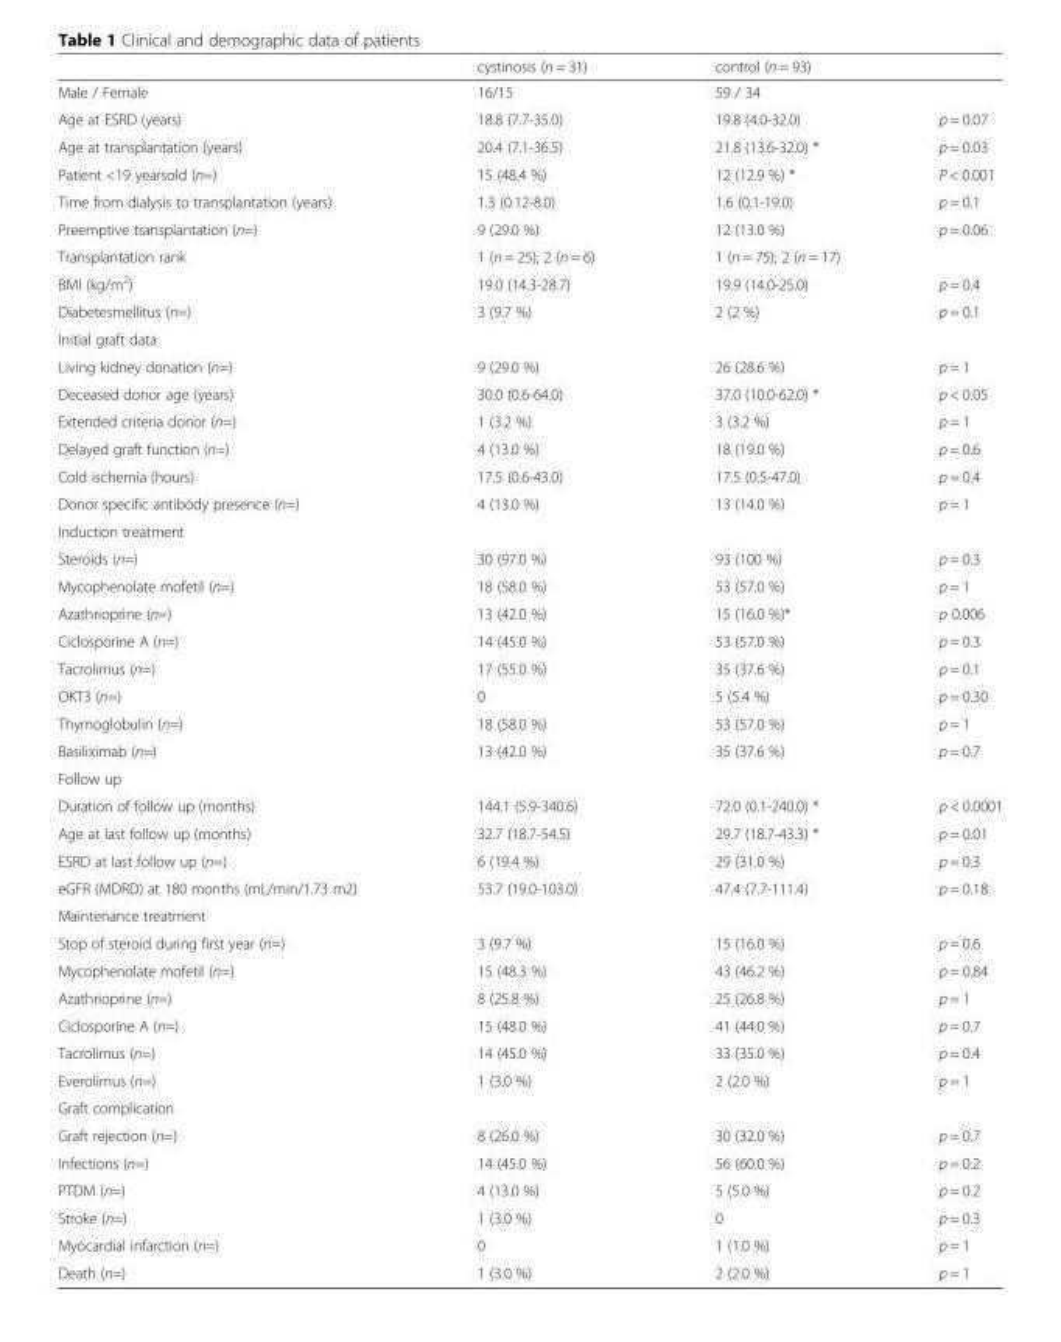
<table><thead><tr><td></td><td>cystinosis (n = 31)</td><td>control (n = 93)</td><td></td></tr></thead><tbody><tr><td>Male / Female</td><td>16/15</td><td>59 / 34</td><td></td></tr><tr><td>Age at ESRD (years)</td><td>18.8 (7.7-35.0)</td><td>19.8 (4.0-32.0)</td><td>p = 0.07</td></tr><tr><td>Age at transplantation (years)</td><td>20.4 (7.1-36.5)</td><td>21.8 (13.6-32.0) *</td><td>p = 0.03</td></tr><tr><td>Patient &lt;19 yearsold (n=)</td><td>15 (48.4 %)</td><td>12 (12.9 %) *</td><td>P &lt; 0.001</td></tr><tr><td>Time from dialysis to transplantation (years)</td><td>1.3 (0.12-8.0)</td><td>1.6 (0.1-19.0)</td><td>p = 0.1</td></tr><tr><td>Preemptive transplantation (n=)</td><td>9 (29.0 %)</td><td>12 (13.0 %)</td><td>p = 0.06</td></tr><tr><td>Transplantation rank</td><td>1 (n = 25); 2 (n = 6)</td><td colspan="2">1 (n = 75); 2 (n = 17)</td></tr><tr><td>BMI (kg/m<sup>2</sup>)</td><td>19.0 (14.3-28.7)</td><td>19.9 (14.0-25.0)</td><td>p = 0.4</td></tr><tr><td>Diabetesmellitus (n=)</td><td>3 (9.7 %)</td><td>2 (2 %)</td><td>p = 0.1</td></tr><tr><td colspan="4">Initial graft data</td></tr><tr><td>Living kidney donation (n=)</td><td>9 (29.0 %)</td><td>26 (28.6 %)</td><td>p = 1</td></tr><tr><td>Deceased donor age (years)</td><td>30.0 (0.6-64.0)</td><td>37.0 (10.0-62.0) *</td><td>p &lt; 0.05</td></tr><tr><td>Extended criteria donor (n=)</td><td>1 (3.2 %)</td><td>3 (3.2 %)</td><td>p = 1</td></tr><tr><td>Delayed graft function (n=)</td><td>4 (13.0 %)</td><td>18 (19.0 %)</td><td>p = 0.6</td></tr><tr><td>Cold ischemia (hours)</td><td>17.5 (0.6-43.0)</td><td>17.5 (0.5-47.0)</td><td>p = 0.4</td></tr><tr><td>Donor specific antibody presence (n=)</td><td>4 (13.0 %)</td><td>13 (14.0 %)</td><td>p = 1</td></tr><tr><td colspan="4">Induction treatment</td></tr><tr><td>Steroids (n=)</td><td>30 (97.0 %)</td><td>93 (100 %)</td><td>p = 0.3</td></tr><tr><td>Mycophenolate mofetil (n=)</td><td>18 (58.0 %)</td><td>53 (57.0 %)</td><td>p = 1</td></tr><tr><td>Azathrioprine (n=)</td><td>13 (42.0 %)</td><td>15 (16.0 %)*</td><td>p 0.006</td></tr><tr><td>Ciclosporine A (n=)</td><td>14 (45.0 %)</td><td>53 (57.0 %)</td><td>p = 0.3</td></tr><tr><td>Tacrolimus (n=)</td><td>17 (55.0 %)</td><td>35 (37.6 %)</td><td>p = 0.1</td></tr><tr><td>OKT3 (n=)</td><td>0</td><td>5 (5.4 %)</td><td>p = 0.30</td></tr><tr><td>Thymoglobulin (n=)</td><td>18 (58.0 %)</td><td>53 (57.0 %)</td><td>p = 1</td></tr><tr><td>Basiliximab (n=)</td><td>13 (42.0 %)</td><td>35 (37.6 %)</td><td>p = 0.7</td></tr><tr><td colspan="4">Follow up</td></tr><tr><td>Duration of follow up (months)</td><td>144.1 (5.9-340.6)</td><td>72.0 (0.1-240.0) *</td><td>p &lt; 0.0001</td></tr><tr><td>Age at last follow up (months)</td><td>32.7 (18.7-54.5)</td><td>29.7 (18.7-43.3) *</td><td>p = 0.01</td></tr><tr><td>ESRD at last follow up (n=)</td><td>6 (19.4 %)</td><td>29 (31.0 %)</td><td>p = 0.3</td></tr><tr><td>eGFR (MDRD) at 180 months (mL/min/1.73 m2)</td><td>53.7 (19.0-103.0)</td><td>47.4 (7.7-111.4)</td><td>p = 0.18</td></tr><tr><td colspan="4">Maintenance treatment</td></tr><tr><td>Stop of steroid during first year (n=)</td><td>3 (9.7 %)</td><td>15 (16.0 %)</td><td>p = 0.6</td></tr><tr><td>Mycophenolate mofetil (n=)</td><td>15 (48.3 %)</td><td>43 (46.2 %)</td><td>p = 0.84</td></tr><tr><td>Azathrioprine (n=)</td><td>8 (25.8 %)</td><td>25 (26.8 %)</td><td>p = 1</td></tr><tr><td>Ciclosporine A (n=)</td><td>15 (48.0 %)</td><td>41 (44.0 %)</td><td>p = 0.7</td></tr><tr><td>Tacrolimus (n=)</td><td>14 (45.0 %)</td><td>33 (35.0 %)</td><td>p = 0.4</td></tr><tr><td>Everolimus (n=)</td><td>1 (3.0 %)</td><td>2 (2.0 %)</td><td>p = 1</td></tr><tr><td colspan="4">Graft complication</td></tr><tr><td>Graft rejection (n=)</td><td>8 (26.0 %)</td><td>30 (32.0 %)</td><td>p = 0.7</td></tr><tr><td>Infections (n=)</td><td>14 (45.0 %)</td><td>56 (60.0 %)</td><td>p = 0.2</td></tr><tr><td>PTDM (n=)</td><td>4 (13.0 %)</td><td>5 (5.0 %)</td><td>p = 0.2</td></tr><tr><td>Stroke (n=)</td><td>1 (3.0 %)</td><td>0</td><td>p = 0.3</td></tr><tr><td>Myocardial infarction (n=)</td><td>0</td><td>1 (1.0 %)</td><td>p = 1</td></tr><tr><td>Death (n=)</td><td>1 (3.0 %)</td><td>2 (2.0 %)</td><td>p = 1</td></tr></tbody></table>